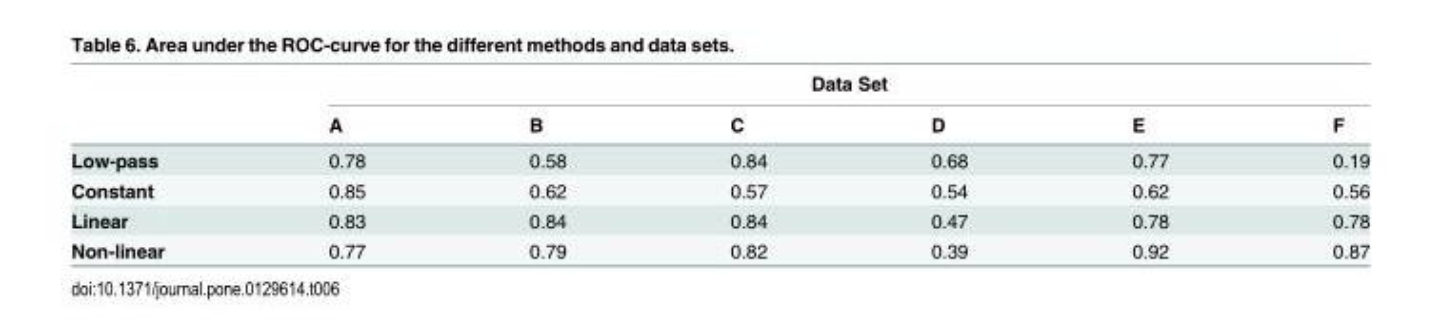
<table><thead><tr><td rowspan="2"></td><td colspan="6">Data Set</td></tr><tr><td>A</td><td>B</td><td>C</td><td>D</td><td>E</td><td>F</td></tr></thead><tbody><tr><td>Low-pass</td><td>0.78</td><td>0.58</td><td>0.84</td><td>0.68</td><td>0.77</td><td>0.19</td></tr><tr><td>Constant</td><td>0.85</td><td>0.62</td><td>0.57</td><td>0.54</td><td>0.62</td><td>0.56</td></tr><tr><td>Linear</td><td>0.83</td><td>0.84</td><td>0.84</td><td>0.47</td><td>0.78</td><td>0.78</td></tr><tr><td>Non-linear</td><td>0.77</td><td>0.79</td><td>0.82</td><td>0.39</td><td>0.92</td><td>0.87</td></tr></tbody></table>